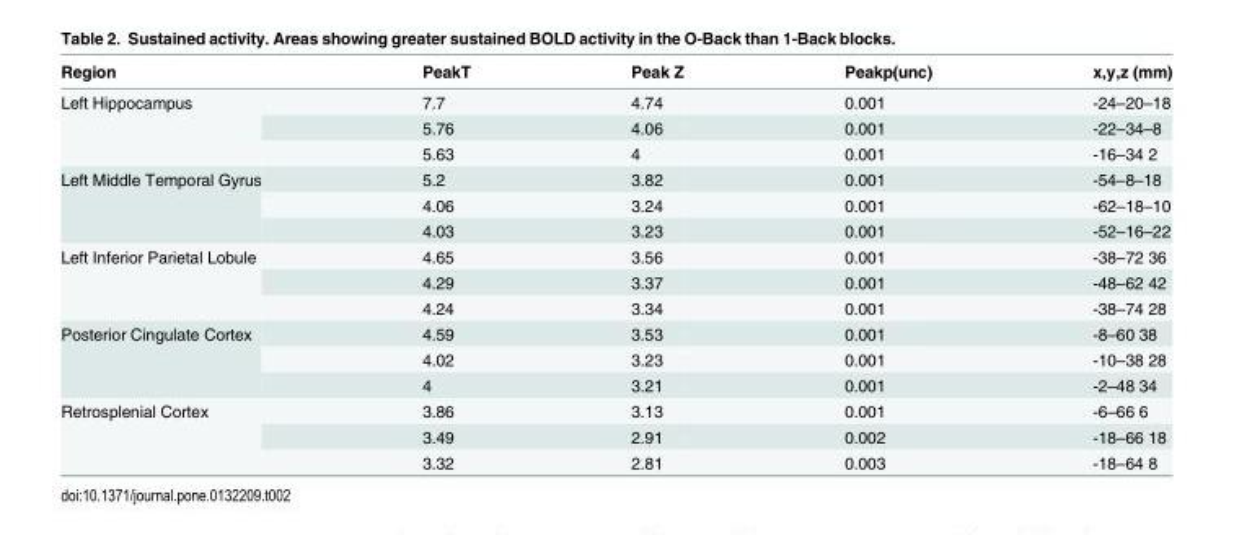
<table><thead><tr><td>Region</td><td>PeakT</td><td>Peak Z</td><td>Peakp(unc)</td><td>x,y,z (mm)</td></tr></thead><tbody><tr><td rowspan="3">Left Hippocampus</td><td>7.7</td><td>4.74</td><td>0.001</td><td>-24–20–18</td></tr><tr><td>5.76</td><td>4.06</td><td>0.001</td><td>-22–34–8</td></tr><tr><td>5.63</td><td>4</td><td>0.001</td><td>-16–34 2</td></tr><tr><td rowspan="3">Left Middle Temporal Gyrus</td><td>5.2</td><td>3.82</td><td>0.001</td><td>-54–8–18</td></tr><tr><td>4.06</td><td>3.24</td><td>0.001</td><td>-62–18–10</td></tr><tr><td>4.03</td><td>3.23</td><td>0.001</td><td>-52–16–22</td></tr><tr><td rowspan="3">Left Inferior Parietal Lobule</td><td>4.65</td><td>3.56</td><td>0.001</td><td>-38–72 36</td></tr><tr><td>4.29</td><td>3.37</td><td>0.001</td><td>-48–62 42</td></tr><tr><td>4.24</td><td>3.34</td><td>0.001</td><td>-38–74 28</td></tr><tr><td rowspan="3">Posterior Cingulate Cortex</td><td>4.59</td><td>3.53</td><td>0.001</td><td>-8–60 38</td></tr><tr><td>4.02</td><td>3.23</td><td>0.001</td><td>-10–38 28</td></tr><tr><td>4</td><td>3.21</td><td>0.001</td><td>-2–48 34</td></tr><tr><td rowspan="3">Retrosplenial Cortex</td><td>3.86</td><td>3.13</td><td>0.001</td><td>-6–66 6</td></tr><tr><td>3.49</td><td>2.91</td><td>0.002</td><td>-18–66 18</td></tr><tr><td>3.32</td><td>2.81</td><td>0.003</td><td>-18–64 8</td></tr></tbody></table>